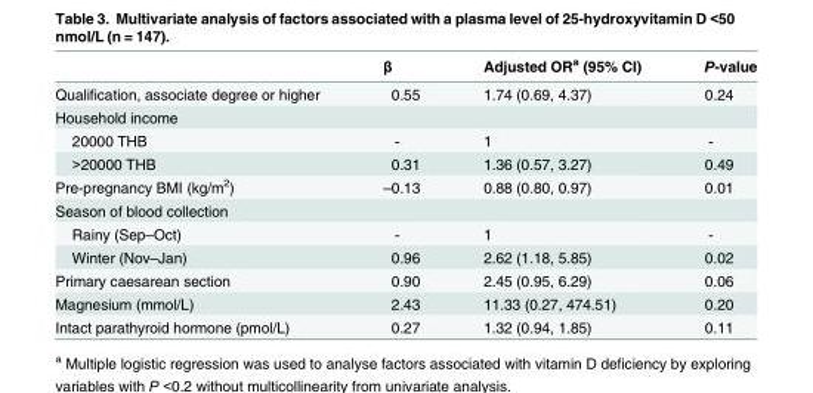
<table><thead><tr><td></td><td>β</td><td>Adjusted OR<sup>a</sup> (95% CI)</td><td>P-value</td></tr></thead><tbody><tr><td>Qualification, associate degree or higher</td><td>0.55</td><td>1.74 (0.69, 4.37)</td><td>0.24</td></tr><tr><td colspan="4">Household income</td></tr><tr><td>20000 THB</td><td>-</td><td>1</td><td>-</td></tr><tr><td>&gt;20000 THB</td><td>0.31</td><td>1.36 (0.57, 3.27)</td><td>0.49</td></tr><tr><td>Pre-pregnancy BMI (kg/m<sup>2</sup>)</td><td>–0.13</td><td>0.88 (0.80, 0.97)</td><td>0.01</td></tr><tr><td colspan="4">Season of blood collection</td></tr><tr><td>Rainy (Sep–Oct)</td><td>-</td><td>1</td><td>-</td></tr><tr><td>Winter (Nov–Jan)</td><td>0.96</td><td>2.62 (1.18, 5.85)</td><td>0.02</td></tr><tr><td>Primary caesarean section</td><td>0.90</td><td>2.45 (0.95, 6.29)</td><td>0.06</td></tr><tr><td>Magnesium (mmol/L)</td><td>2.43</td><td>11.33 (0.27, 474.51)</td><td>0.20</td></tr><tr><td>Intact parathyroid hormone (pmol/L)</td><td>0.27</td><td>1.32 (0.94, 1.85)</td><td>0.11</td></tr></tbody></table>